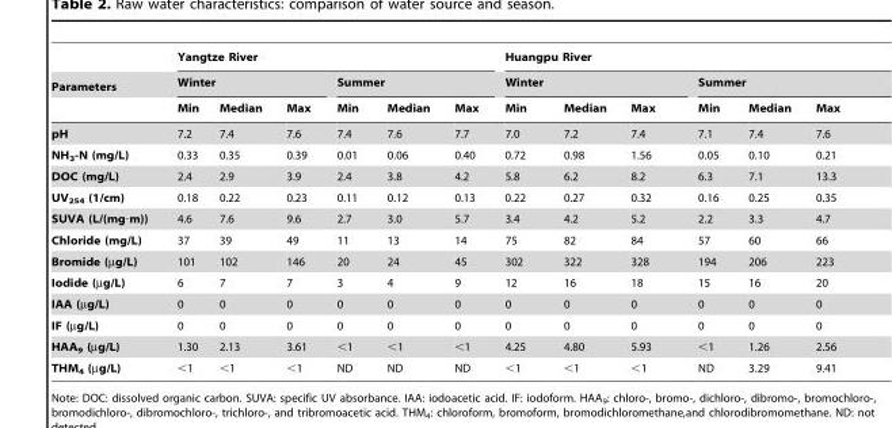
<table><thead><tr><td rowspan="3">Parameters</td><td colspan="6">Yangtze River</td><td colspan="6">Huangpu River</td></tr><tr><td colspan="3">Winter</td><td colspan="3">Summer</td><td colspan="3">Winter</td><td colspan="3">Summer</td></tr><tr><td>Min</td><td>Median</td><td>Max</td><td>Min</td><td>Median</td><td>Max</td><td>Min</td><td>Median</td><td>Max</td><td>Min</td><td>Median</td><td>Max</td></tr></thead><tbody><tr><td>pH</td><td>7.2</td><td>7.4</td><td>7.6</td><td>7.4</td><td>7.6</td><td>7.7</td><td>7.0</td><td>7.2</td><td>7.4</td><td>7.1</td><td>7.4</td><td>7.6</td></tr><tr><td>NH<sub>3</sub>-N (mg/L)</td><td>0.33</td><td>0.35</td><td>0.39</td><td>0.01</td><td>0.06</td><td>0.40</td><td>0.72</td><td>0.98</td><td>1.56</td><td>0.05</td><td>0.10</td><td>0.21</td></tr><tr><td>DOC (mg/L)</td><td>2.4</td><td>2.9</td><td>3.9</td><td>2.4</td><td>3.8</td><td>4.2</td><td>5.8</td><td>6.2</td><td>8.2</td><td>6.3</td><td>7.1</td><td>13.3</td></tr><tr><td>UV<sub>254</sub> (1/cm)</td><td>0.18</td><td>0.22</td><td>0.23</td><td>0.11</td><td>0.12</td><td>0.13</td><td>0.22</td><td>0.27</td><td>0.32</td><td>0.16</td><td>0.25</td><td>0.35</td></tr><tr><td>SUVA (L/(mg·m))</td><td>4.6</td><td>7.6</td><td>9.6</td><td>2.7</td><td>3.0</td><td>5.7</td><td>3.4</td><td>4.2</td><td>5.2</td><td>2.2</td><td>3.3</td><td>4.7</td></tr><tr><td>Chloride (mg/L)</td><td>37</td><td>39</td><td>49</td><td>11</td><td>13</td><td>14</td><td>75</td><td>82</td><td>84</td><td>57</td><td>60</td><td>66</td></tr><tr><td>Bromide (µg/L)</td><td>101</td><td>102</td><td>146</td><td>20</td><td>24</td><td>45</td><td>302</td><td>322</td><td>328</td><td>194</td><td>206</td><td>223</td></tr><tr><td>Iodide (µg/L)</td><td>6</td><td>7</td><td>7</td><td>3</td><td>4</td><td>9</td><td>12</td><td>16</td><td>18</td><td>15</td><td>16</td><td>20</td></tr><tr><td>IAA (µg/L)</td><td>0</td><td>0</td><td>0</td><td>0</td><td>0</td><td>0</td><td>0</td><td>0</td><td>0</td><td>0</td><td>0</td><td>0</td></tr><tr><td>IF (µg/L)</td><td>0</td><td>0</td><td>0</td><td>0</td><td>0</td><td>0</td><td>0</td><td>0</td><td>0</td><td>0</td><td>0</td><td>0</td></tr><tr><td>HAA<sub>9</sub> (µg/L)</td><td>1.30</td><td>2.13</td><td>3.61</td><td>&lt;1</td><td>&lt;1</td><td>&lt;1</td><td>4.25</td><td>4.80</td><td>5.93</td><td>&lt;1</td><td>1.26</td><td>2.56</td></tr><tr><td>THM<sub>4</sub> (µg/L)</td><td>&lt;1</td><td>&lt;1</td><td>&lt;1</td><td>ND</td><td>ND</td><td>ND</td><td>&lt;1</td><td>&lt;1</td><td>&lt;1</td><td>ND</td><td>3.29</td><td>9.41</td></tr></tbody></table>